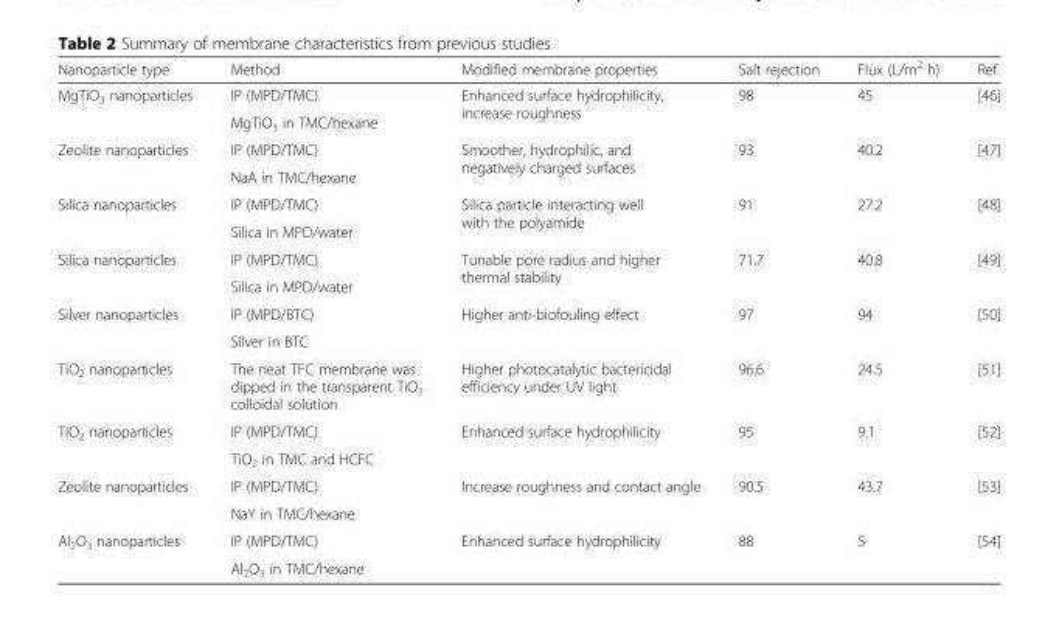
<table><thead><tr><td>Nanoparticle type</td><td>Method</td><td>Modified membrane properties</td><td>Salt rejection</td><td>Flux (L/m<sup>2</sup> h)</td><td>Ref.</td></tr></thead><tbody><tr><td rowspan="2">MgTiO<sub>3</sub> nanoparticles</td><td>IP (MPD/TMC)</td><td rowspan="2">Enhanced surface hydrophilicity, increase roughness</td><td rowspan="2">98</td><td rowspan="2">45</td><td rowspan="2">[46]</td></tr><tr><td>MgTiO<sub>3</sub> in TMC/hexane</td></tr><tr><td rowspan="2">Zeolite nanoparticles</td><td>IP (MPD/TMC)</td><td rowspan="2">Smoother, hydrophilic, and negatively charged surfaces</td><td rowspan="2">93</td><td rowspan="2">40.2</td><td rowspan="2">[47]</td></tr><tr><td>NaA in TMC/hexane</td></tr><tr><td rowspan="2">Silica nanoparticles</td><td>IP (MPD/TMC)</td><td rowspan="2">Silica particle interacting well with the polyamide</td><td rowspan="2">91</td><td rowspan="2">27.2</td><td rowspan="2">[48]</td></tr><tr><td>Silica in MPD/water</td></tr><tr><td rowspan="2">Silica nanoparticles</td><td>IP (MPD/TMC)</td><td rowspan="2">Tunable pore radius and higher thermal stability</td><td rowspan="2">71.7</td><td rowspan="2">40.8</td><td rowspan="2">[49]</td></tr><tr><td>Silica in MPD/water</td></tr><tr><td rowspan="2">Silver nanoparticles</td><td>IP (MPD/BTC)</td><td rowspan="2">Higher anti-biofouling effect</td><td rowspan="2">97</td><td rowspan="2">94</td><td rowspan="2">[50]</td></tr><tr><td>Silver in BTC</td></tr><tr><td>TiO<sub>2</sub> nanoparticles</td><td>The neat TFC membrane was dipped in the transparent TiO<sub>2</sub> colloidal solution</td><td>Higher photocatalytic bactericidal efficiency under UV light</td><td>96.6</td><td>24.5</td><td>[51]</td></tr><tr><td rowspan="2">TiO<sub>2</sub> nanoparticles</td><td>IP (MPD/TMC)</td><td rowspan="2">Enhanced surface hydrophilicity</td><td rowspan="2">95</td><td rowspan="2">9.1</td><td rowspan="2">[52]</td></tr><tr><td>TiO<sub>2</sub> in TMC and HCFC</td></tr><tr><td rowspan="2">Zeolite nanoparticles</td><td>IP (MPD/TMC)</td><td rowspan="2">Increase roughness and contact angle</td><td rowspan="2">90.5</td><td rowspan="2">43.7</td><td rowspan="2">[53]</td></tr><tr><td>NaY in TMC/hexane</td></tr><tr><td rowspan="2">Al<sub>2</sub>O<sub>3</sub> nanoparticles</td><td>IP (MPD/TMC)</td><td rowspan="2">Enhanced surface hydrophilicity</td><td rowspan="2">88</td><td rowspan="2">5</td><td rowspan="2">[54]</td></tr><tr><td>Al<sub>2</sub>O<sub>3</sub> in TMC/hexane</td></tr></tbody></table>